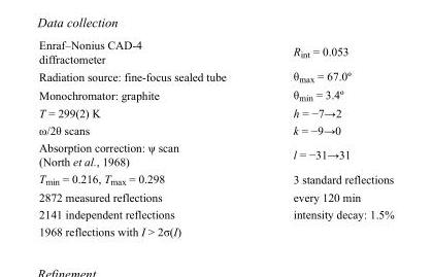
<table><tbody><tr><td>Enraf–Nonius CAD-4 diffractometer</td><td>R<sub>int</sub> = 0.053</td></tr><tr><td>Radiation source: fine-focus sealed tube</td><td>θ<sub>max</sub> = 67.0º</td></tr><tr><td>Monochromator: graphite</td><td>θ<sub>min</sub> = 3.4º</td></tr><tr><td>T = 299(2) K</td><td>h = −7→2</td></tr><tr><td>ω/2θ scans</td><td>k = −9→0</td></tr><tr><td>Absorption correction: ψ scan (North et al., 1968)</td><td>l = −31→31</td></tr><tr><td>T<sub>min</sub> = 0.216, T<sub>max</sub> = 0.298</td><td>3 standard reflections</td></tr><tr><td>2872 measured reflections</td><td>every 120 min</td></tr><tr><td>2141 independent reflections</td><td>intensity decay: 1.5%</td></tr><tr><td>1968 reflections with I &gt; 2σ(I)</td><td></td></tr></tbody></table>